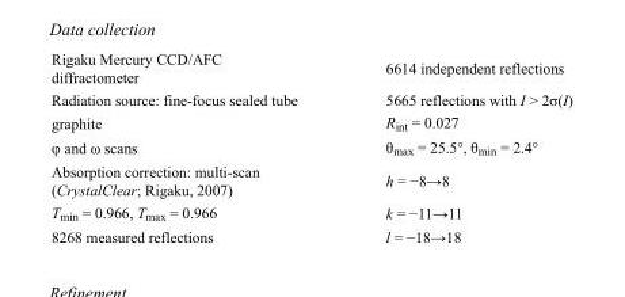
<table><tbody><tr><td>Rigaku Mercury CCD/AFC diffractometer</td><td>6614 independent reflections</td></tr><tr><td>Radiation source: fine-focus sealed tube</td><td>5665 reflections with I &gt; 2σ(I)</td></tr><tr><td>graphite</td><td>R<sub>int</sub> = 0.027</td></tr><tr><td>φ and ω scans</td><td>θ<sub>max</sub> = 25.5°, θ<sub>min</sub> = 2.4°</td></tr><tr><td>Absorption correction: multi-scan (CrystalClear; Rigaku, 2007)</td><td>h = −8→8</td></tr><tr><td>T<sub>min</sub> = 0.966, T<sub>max</sub> = 0.966</td><td>k = −11→11</td></tr><tr><td>8268 measured reflections</td><td>l = −18→18</td></tr></tbody></table>